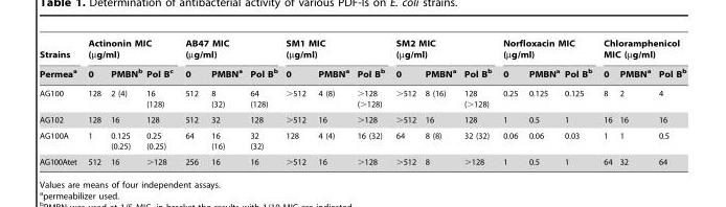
<table><thead><tr><td rowspan="2">Strains Permea<sup>a</sup></td><td colspan="3">Actinonin MIC (µg/ml)</td><td colspan="3">AB47 MIC (µg/ml)</td><td colspan="3">SM1 MIC (µg/ml)</td><td colspan="3">SM2 MIC (µg/ml)</td><td colspan="3">Norfloxacin MIC (µg/ml)</td><td colspan="3">Chloramphenicol MIC (µg/ml)</td></tr><tr><td>0</td><td>PMBN<sup>b</sup></td><td>Pol B<sup>c</sup></td><td>0</td><td>PMBN<sup>a</sup></td><td>Pol B<sup>b</sup></td><td>0</td><td>PMBN<sup>a</sup></td><td>Pol B<sup>b</sup></td><td>0</td><td>PMBN<sup>a</sup></td><td>Pol B<sup>b</sup></td><td>0</td><td>PMBN<sup>a</sup></td><td>Pol B<sup>b</sup></td><td>0</td><td>PMBN<sup>a</sup></td><td>Pol B<sup>b</sup></td></tr></thead><tbody><tr><td>AG100</td><td>128</td><td>2 (4)</td><td>16 (128)</td><td>512</td><td>8 (32)</td><td>64 (128)</td><td>&gt;512</td><td>4 (8)</td><td>&gt;128 (&gt;128)</td><td>&gt;512</td><td>8 (16)</td><td>128 (&gt;128)</td><td>0.25</td><td>0.125</td><td>0.125</td><td>8</td><td>2</td><td>4</td></tr><tr><td>AG102</td><td>128</td><td>16</td><td>128</td><td>512</td><td>32</td><td>128</td><td>&gt;512</td><td>16</td><td>&gt;128</td><td>&gt;512</td><td>16</td><td>128</td><td>1</td><td>0.5</td><td>1</td><td>16</td><td>16</td><td>16</td></tr><tr><td>AG100A</td><td>1</td><td>0.125 (0.25)</td><td>0.25 (0.25)</td><td>64</td><td>16 (16)</td><td>32 (32)</td><td>128</td><td>4 (4)</td><td>16 (32)</td><td>64</td><td>8 (8)</td><td>32 (32)</td><td>0.06</td><td>0.06</td><td>0.03</td><td>1</td><td>1</td><td>0.5</td></tr><tr><td>AG100Atet</td><td>512</td><td>16</td><td>&gt;128</td><td>256</td><td>16</td><td>16</td><td>&gt;512</td><td>16</td><td>&gt;128</td><td>&gt;512</td><td>8</td><td>&gt;128</td><td>1</td><td>0.5</td><td>1</td><td>64</td><td>32</td><td>64</td></tr></tbody></table>